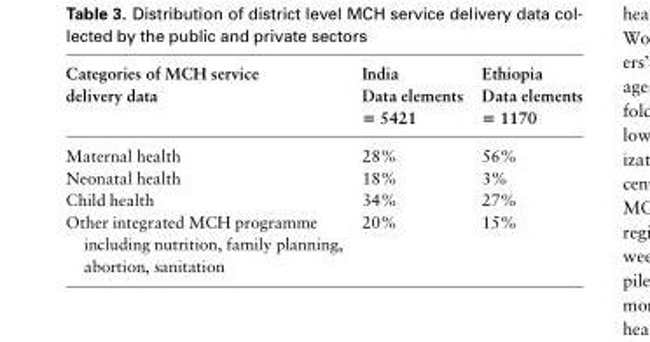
<table><thead><tr><td rowspan="2">Categories of MCH service delivery data</td><td rowspan="2">India Data elements = 5421</td><td rowspan="2">Ethiopia Data elements = 1170</td></tr><tr></tr></thead><tbody><tr><td>Maternal health</td><td>28%</td><td>56%</td></tr><tr><td>Neonatal health</td><td>18%</td><td>3%</td></tr><tr><td>Child health</td><td>34%</td><td>27%</td></tr><tr><td>Other integrated MCH programme including nutrition, family planning, abortion, sanitation</td><td>20%</td><td>15%</td></tr></tbody></table>